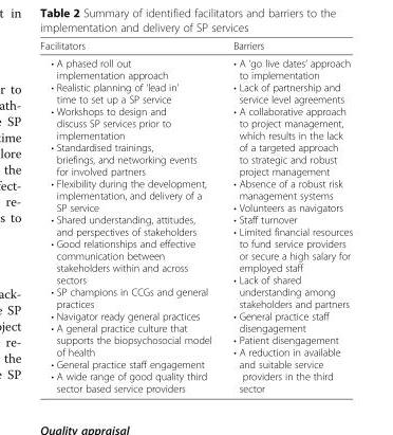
<table><thead><tr><td>Facilitators</td><td>Barriers</td></tr></thead><tbody><tr><td>• A phased roll out implementation approach • Realistic planning of ‘lead in’ time to set up a SP service • Workshops to design and discuss SP services prior to implementation • Standardised trainings, briefings, and networking events for involved partners • Flexibility during the development, implementation, and delivery of a SP service • Shared understanding, attitudes, and perspectives of stakeholders • Good relationships and effective communication between stakeholders within and across sectors • SP champions in CCGs and general practices • Navigator ready general practices • A general practice culture that supports the biopsychosocial model of health • General practice staff engagement • A wide range of good quality third sector based service providers</td><td>• A ‘go live dates’ approach to implementation • Lack of partnership and service level agreements • A collaborative approach to project management, which results in the lack of a targeted approach to strategic and robust project management • Absence of a robust risk management systems • Volunteers as navigators • Staff turnover • Limited financial resources to fund service providers or secure a high salary for employed staff • Lack of shared understanding among stakeholders and partners • General practice staff disengagement • Patient disengagement • A reduction in available and suitable service providers in the third sector</td></tr></tbody></table>